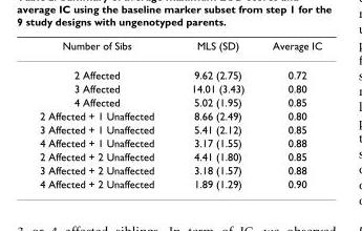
<table><thead><tr><td>Number of Sibs</td><td>MLS (SD)</td><td>Average IC</td></tr></thead><tbody><tr><td>2 Affected</td><td>9.62 (2.75)</td><td>0.72</td></tr><tr><td>3 Affected</td><td>14.01 (3.43)</td><td>0.80</td></tr><tr><td>4 Affected</td><td>5.02 (1.95)</td><td>0.85</td></tr><tr><td>2 Affected + 1 Unaffected</td><td>8.66 (2.49)</td><td>0.80</td></tr><tr><td>3 Affected + 1 Unaffected</td><td>5.41 (2.12)</td><td>0.85</td></tr><tr><td>4 Affected + 1 Unaffected</td><td>3.17 (1.55)</td><td>0.88</td></tr><tr><td>2 Affected + 2 Unaffected</td><td>4.41 (1.80)</td><td>0.85</td></tr><tr><td>3 Affected + 2 Unaffected</td><td>3.18 (1.57)</td><td>0.88</td></tr><tr><td>4 Affected + 2 Unaffected</td><td>1.89 (1.29)</td><td>0.90</td></tr></tbody></table>